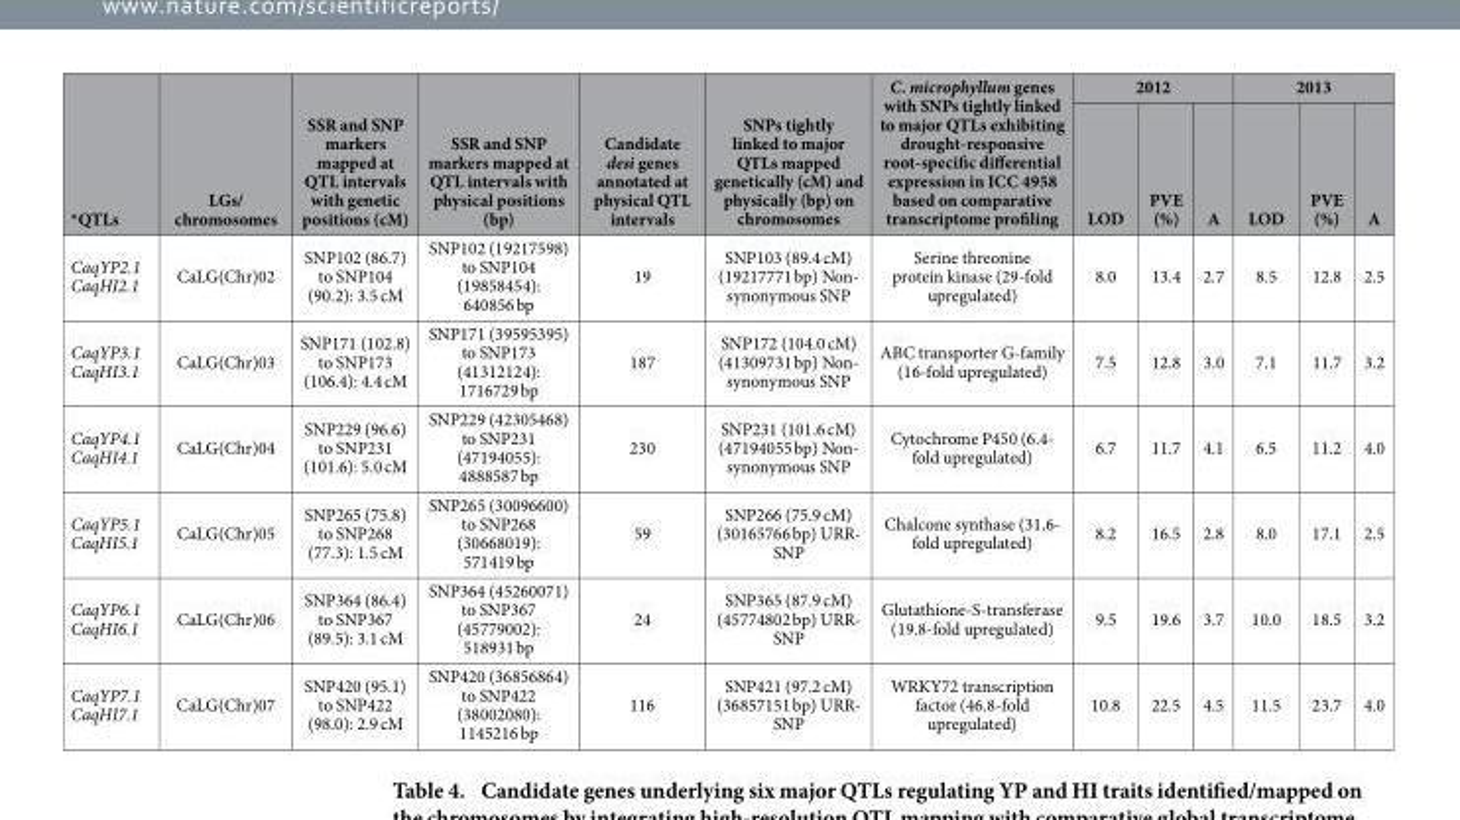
<table><thead><tr><td rowspan="2">*QTLs</td><td rowspan="2">LGs/ chromosomes</td><td rowspan="2">SSR and SNP markers mapped at QTL intervals with genetic positions (cM)</td><td rowspan="2">SSR and SNP markers mapped at QTL intervals with physical positions (bp)</td><td rowspan="2">Candidate desi genes annotated at physical QTL intervals</td><td rowspan="2">SNPs tightly linked to major QTLs mapped genetically (cM) and physically (bp) on chromosomes</td><td rowspan="2">C. microphyllum genes with SNPs tightly linked to major QTLs exhibiting drought-responsive root-specific differential expression in ICC 4958 based on comparative transcriptome profiling</td><td colspan="3">2012</td><td colspan="3">2013</td></tr><tr><td>LOD</td><td>PVE (%)</td><td>A</td><td>LOD</td><td>PVE (%)</td><td>A</td></tr></thead><tbody><tr><td>CaqYP2.1 CaqHI2.1</td><td>CaLG(Chr)02</td><td>SNP102 (86.7) to SNP104 (90.2): 3.5 cM</td><td>SNP102 (19217598) to SNP104 (19858454): 640856 bp</td><td>19</td><td>SNP103 (89.4 cM) (19217771 bp) Non- synonymous SNP</td><td>Serine threonine protein kinase (29-fold upregulated)</td><td>8.0</td><td>13.4</td><td>2.7</td><td>8.5</td><td>12.8</td><td>2.5</td></tr><tr><td>CaqYP3.1 CaqHI3.1</td><td>CaLG(Chr)03</td><td>SNP171 (102.8) to SNP173 (106.4): 4.4 cM</td><td>SNP171 (39595395) to SNP173 (41312124): 1716729 bp</td><td>187</td><td>SNP172 (104.0 cM) (41309731 bp) Non- synonymous SNP</td><td>ABC transporter G-family (16-fold upregulated)</td><td>7.5</td><td>12.8</td><td>3.0</td><td>7.1</td><td>11.7</td><td>3.2</td></tr><tr><td>CaqYP4.1 CaqHI4.1</td><td>CaLG(Chr)04</td><td>SNP229 (96.6) to SNP231 (101.6): 5.0 cM</td><td>SNP229 (42305468) to SNP231 (47194055): 4888587 bp</td><td>230</td><td>SNP231 (101.6 cM) (47194055 bp) Non- synonymous SNP</td><td>Cytochrome P450 (6.4- fold upregulated)</td><td>6.7</td><td>11.7</td><td>4.1</td><td>6.5</td><td>11.2</td><td>4.0</td></tr><tr><td>CaqYP5.1 CaqHI5.1</td><td>CaLG(Chr)05</td><td>SNP265 (75.8) to SNP268 (77.3): 1.5 cM</td><td>SNP265 (30096600) to SNP268 (30668019): 571419 bp</td><td>59</td><td>SNP266 (75.9 cM) (30165766 bp) URR- SNP</td><td>Chalcone synthase (31.6- fold upregulated)</td><td>8.2</td><td>16.5</td><td>2.8</td><td>8.0</td><td>17.1</td><td>2.5</td></tr><tr><td>CaqYP6.1 CaqHI6.1</td><td>CaLG(Chr)06</td><td>SNP364 (86.4) to SNP367 (89.5): 3.1 cM</td><td>SNP364 (45260071) to SNP367 (45779002): 518931 bp</td><td>24</td><td>SNP365 (87.9 cM) (45774802 bp) URR- SNP</td><td>Glutathione-S-transferase (19.8-fold upregulated)</td><td>9.5</td><td>19.6</td><td>3.7</td><td>10.0</td><td>18.5</td><td>3.2</td></tr><tr><td>CaqYP7.1 CaqHI7.1</td><td>CaLG(Chr)07</td><td>SNP420 (95.1) to SNP422 (98.0): 2.9 cM</td><td>SNP420 (36856864) to SNP422 (38002080): 1145216 bp</td><td>116</td><td>SNP421 (97.2 cM) (36857151 bp) URR- SNP</td><td>WRKY72 transcription factor (46.8-fold upregulated)</td><td>10.8</td><td>22.5</td><td>4.5</td><td>11.5</td><td>23.7</td><td>4.0</td></tr></tbody></table>